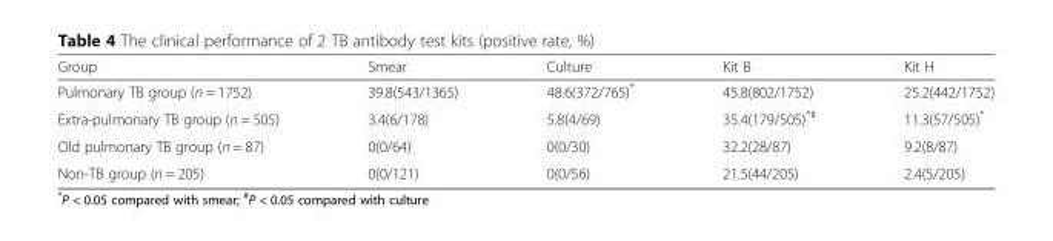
<table><thead><tr><td>Group</td><td>Smear</td><td>Culture</td><td>Kit B</td><td>Kit H</td></tr></thead><tbody><tr><td>Pulmonary TB group (n = 1752)</td><td>39.8(543/1365)</td><td>48.6(372/765)*</td><td>45.8(802/1752)</td><td>25.2(442/1752)</td></tr><tr><td>Extra-pulmonary TB group (n = 505)</td><td>3.4(6/178)</td><td>5.8(4/69)</td><td>35.4(179/505)<sup>*#</sup></td><td>11.3(57/505)*</td></tr><tr><td>Old pulmonary TB group (n = 87)</td><td>0(0/64)</td><td>0(0/30)</td><td>32.2(28/87)</td><td>9.2(8/87)</td></tr><tr><td>Non-TB group (n = 205)</td><td>0(0/121)</td><td>0(0/56)</td><td>21.5(44/205)</td><td>2.4(5/205)</td></tr></tbody></table>